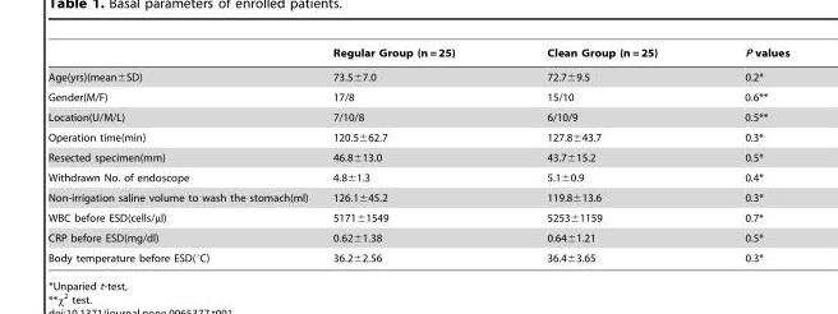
<table><thead><tr><td></td><td>Regular Group (n = 25)</td><td>Clean Group (n = 25)</td><td>P values</td></tr></thead><tbody><tr><td>Age(yrs)(mean±SD)</td><td>73.5±7.0</td><td>72.7±9.5</td><td>0.2*</td></tr><tr><td>Gender(M/F)</td><td>17/8</td><td>15/10</td><td>0.6**</td></tr><tr><td>Location(U/M/L)</td><td>7/10/8</td><td>6/10/9</td><td>0.5**</td></tr><tr><td>Operation time(min)</td><td>120.5±62.7</td><td>127.8±43.7</td><td>0.3*</td></tr><tr><td>Resected specimen(mm)</td><td>46.8±13.0</td><td>43.7±15.2</td><td>0.5*</td></tr><tr><td>Withdrawn No. of endoscope</td><td>4.8±1.3</td><td>5.1±0.9</td><td>0.4*</td></tr><tr><td>Non-irrigation saline volume to wash the stomach(ml)</td><td>126.1±45.2</td><td>119.8±13.6</td><td>0.3*</td></tr><tr><td>WBC before ESD(cells/µl)</td><td>5171±1549</td><td>5253±1159</td><td>0.7*</td></tr><tr><td>CRP before ESD(mg/dl)</td><td>0.62±1.38</td><td>0.64±1.21</td><td>0.5*</td></tr><tr><td>Body temperature before ESD(°C)</td><td>36.2±2.56</td><td>36.4±3.65</td><td>0.3*</td></tr></tbody></table>